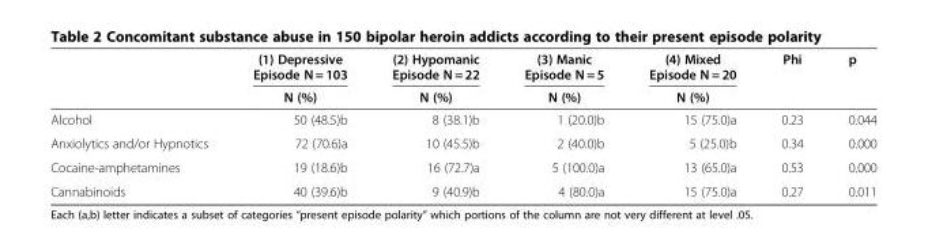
<table><thead><tr><td rowspan="2"></td><td rowspan="2">(1) Depressive Episode N = 103 N (%)</td><td rowspan="2">(2) Hypomanic Episode N = 22 N (%)</td><td rowspan="2">(3) Manic Episode N = 5 N (%)</td><td rowspan="2">(4) Mixed Episode N = 20 N (%)</td><td rowspan="2">Phi</td><td rowspan="2">p</td></tr><tr></tr></thead><tbody><tr><td>Alcohol</td><td>50 (48.5)b</td><td>8 (38.1)b</td><td>1 (20.0)b</td><td>15 (75.0)a</td><td>0.23</td><td>0.044</td></tr><tr><td>Anxiolytics and/or Hypnotics</td><td>72 (70.6)a</td><td>10 (45.5)b</td><td>2 (40.0)b</td><td>5 (25.0)b</td><td>0.34</td><td>0.000</td></tr><tr><td>Cocaine-amphetamines</td><td>19 (18.6)b</td><td>16 (72.7)a</td><td>5 (100.0)a</td><td>13 (65.0)a</td><td>0.53</td><td>0.000</td></tr><tr><td>Cannabinoids</td><td>40 (39.6)b</td><td>9 (40.9)b</td><td>4 (80.0)a</td><td>15 (75.0)a</td><td>0.27</td><td>0.011</td></tr></tbody></table>